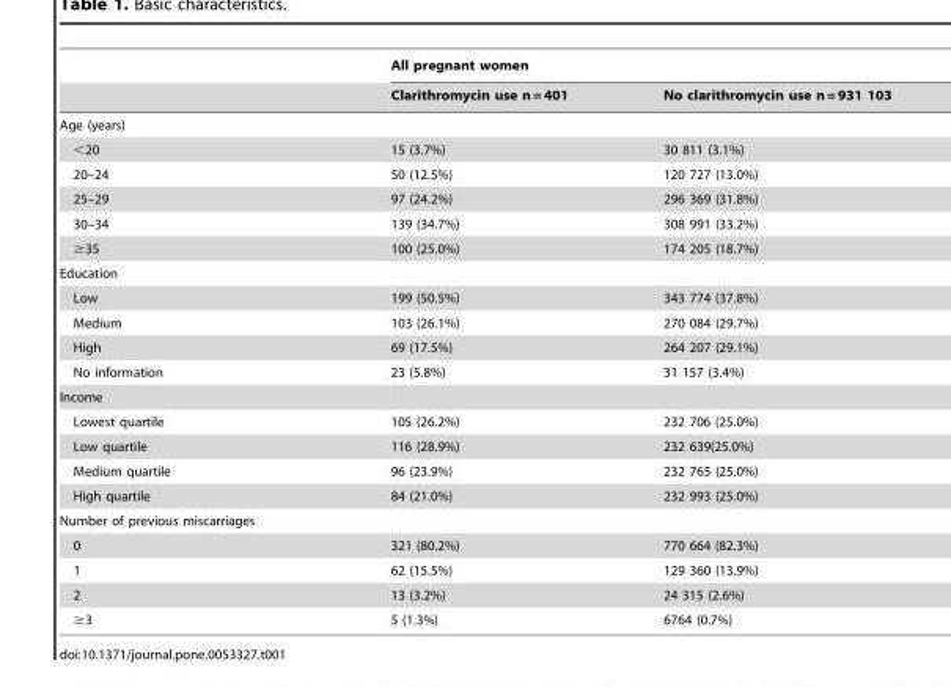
<table><thead><tr><td rowspan="2"></td><td colspan="2">All pregnant women</td></tr><tr><td>Clarithromycin use n = 401</td><td>No clarithromycin use n = 931 103</td></tr></thead><tbody><tr><td colspan="3">Age (years)</td></tr><tr><td>&lt;20</td><td>15 (3.7%)</td><td>30 811 (3.1%)</td></tr><tr><td>20–24</td><td>50 (12.5%)</td><td>120 727 (13.0%)</td></tr><tr><td>25–29</td><td>97 (24.2%)</td><td>296 369 (31.8%)</td></tr><tr><td>30–34</td><td>139 (34.7%)</td><td>308 991 (33.2%)</td></tr><tr><td>≥35</td><td>100 (25.0%)</td><td>174 205 (18.7%)</td></tr><tr><td colspan="3">Education</td></tr><tr><td>Low</td><td>199 (50.5%)</td><td>343 774 (37.8%)</td></tr><tr><td>Medium</td><td>103 (26.1%)</td><td>270 084 (29.7%)</td></tr><tr><td>High</td><td>69 (17.5%)</td><td>264 207 (29.1%)</td></tr><tr><td>No information</td><td>23 (5.8%)</td><td>31 157 (3.4%)</td></tr><tr><td colspan="3">Income</td></tr><tr><td>Lowest quartile</td><td>105 (26.2%)</td><td>232 706 (25.0%)</td></tr><tr><td>Low quartile</td><td>116 (28.9%)</td><td>232 639(25.0%)</td></tr><tr><td>Medium quartile</td><td>96 (23.9%)</td><td>232 765 (25.0%)</td></tr><tr><td>High quartile</td><td>84 (21.0%)</td><td>232 993 (25.0%)</td></tr><tr><td colspan="3">Number of previous miscarriages</td></tr><tr><td>0</td><td>321 (80.2%)</td><td>770 664 (82.3%)</td></tr><tr><td>1</td><td>62 (15.5%)</td><td>129 360 (13.9%)</td></tr><tr><td>2</td><td>13 (3.2%)</td><td>24 315 (2.6%)</td></tr><tr><td>≥3</td><td>5 (1.3%)</td><td>6764 (0.7%)</td></tr></tbody></table>